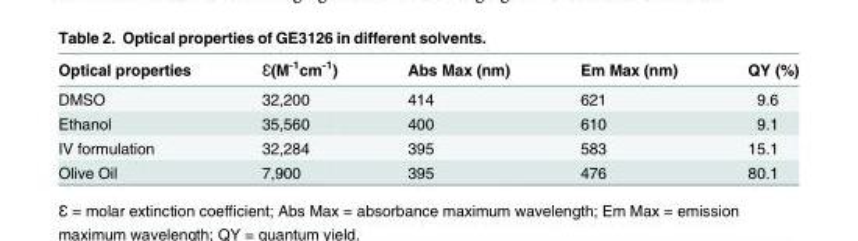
<table><thead><tr><td>Optical properties</td><td>Ɛ(M<sup>-1</sup>cm<sup>-1</sup>)</td><td>Abs Max (nm)</td><td>Em Max (nm)</td><td>QY (%)</td></tr></thead><tbody><tr><td>DMSO</td><td>32,200</td><td>414</td><td>621</td><td>9.6</td></tr><tr><td>Ethanol</td><td>35,560</td><td>400</td><td>610</td><td>9.1</td></tr><tr><td>IV formulation</td><td>32,284</td><td>395</td><td>583</td><td>15.1</td></tr><tr><td>Olive Oil</td><td>7,900</td><td>395</td><td>476</td><td>80.1</td></tr></tbody></table>